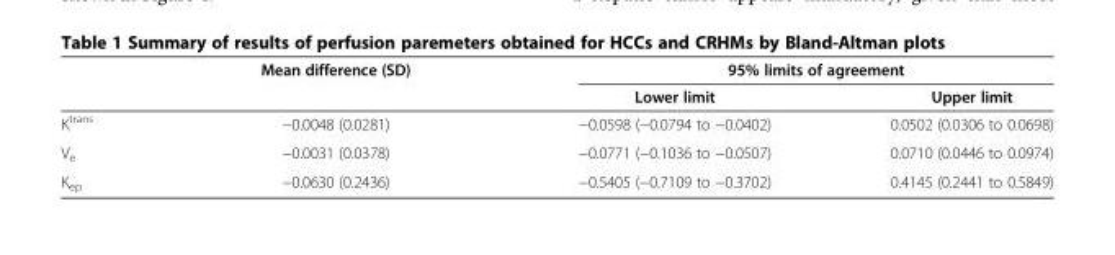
<table><thead><tr><td rowspan="2"></td><td rowspan="2">Mean difference (SD)</td><td colspan="2">95% limits of agreement</td></tr><tr><td>Lower limit</td><td>Upper limit</td></tr></thead><tbody><tr><td>K<sup>trans</sup></td><td>−0.0048 (0.0281)</td><td>−0.0598 (−0.0794 to −0.0402)</td><td>0.0502 (0.0306 to 0.0698)</td></tr><tr><td>V<sub>e</sub></td><td>−0.0031 (0.0378)</td><td>−0.0771 (−0.1036 to −0.0507)</td><td>0.0710 (0.0446 to 0.0974)</td></tr><tr><td>K<sub>ep</sub></td><td>−0.0630 (0.2436)</td><td>−0.5405 (−0.7109 to −0.3702)</td><td>0.4145 (0.2441 to 0.5849)</td></tr></tbody></table>